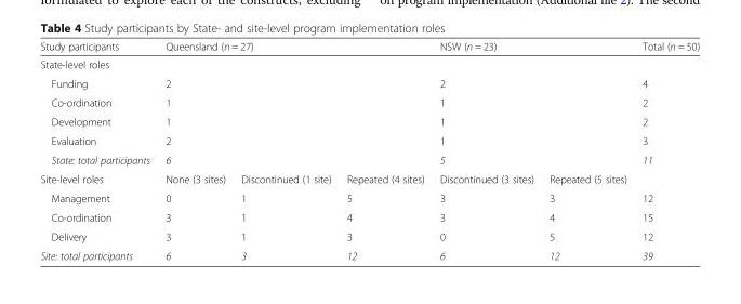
<table><thead><tr><td>Study participants</td><td colspan="3">Queensland (n = 27)</td><td colspan="2">NSW (n = 23)</td><td>Total (n = 50)</td></tr></thead><tbody><tr><td colspan="7">State-level roles</td></tr><tr><td>Funding</td><td colspan="3">2</td><td colspan="2">2</td><td>4</td></tr><tr><td>Co-ordination</td><td colspan="3">1</td><td colspan="2">1</td><td>2</td></tr><tr><td>Development</td><td colspan="3">1</td><td colspan="2">1</td><td>2</td></tr><tr><td>Evaluation</td><td colspan="3">2</td><td colspan="2">1</td><td>3</td></tr><tr><td>State: total participants</td><td colspan="3">6</td><td colspan="2">5</td><td>11</td></tr><tr><td>Site-level roles</td><td>None (3 sites)</td><td>Discontinued (1 site)</td><td>Repeated (4 sites)</td><td>Discontinued (3 sites)</td><td>Repeated (5 sites)</td><td></td></tr><tr><td>Management</td><td>0</td><td>1</td><td>5</td><td>3</td><td>3</td><td>12</td></tr><tr><td>Co-ordination</td><td>3</td><td>1</td><td>4</td><td>3</td><td>4</td><td>15</td></tr><tr><td>Delivery</td><td>3</td><td>1</td><td>3</td><td>0</td><td>5</td><td>12</td></tr><tr><td>Site: total participants</td><td>6</td><td>3</td><td>12</td><td>6</td><td>12</td><td>39</td></tr></tbody></table>